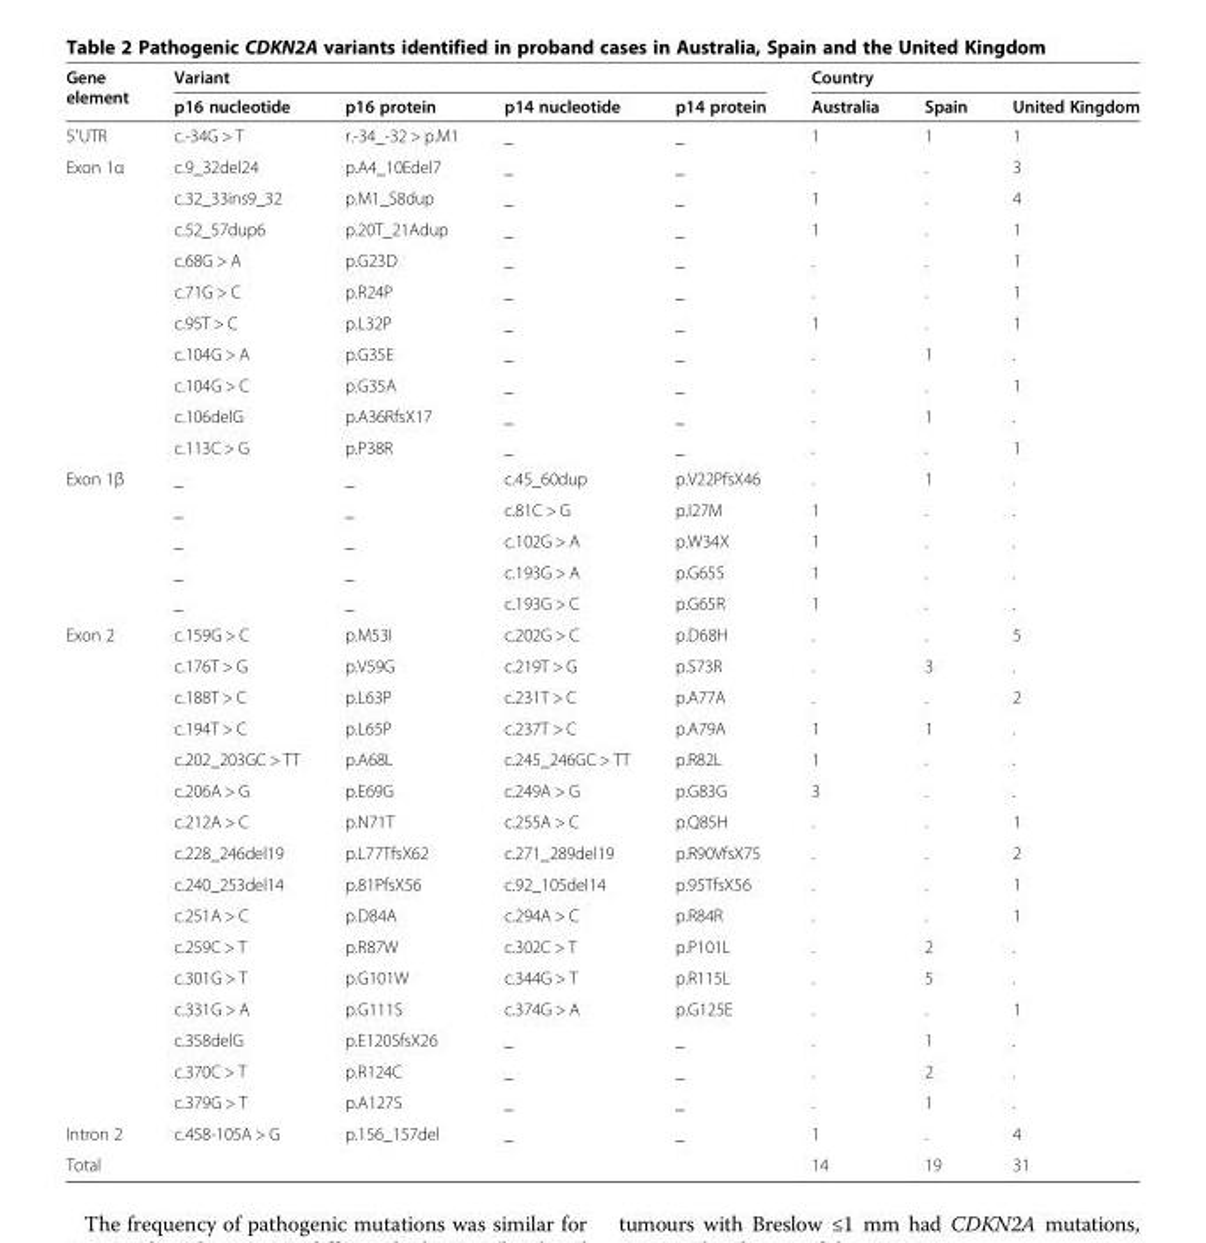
<table><thead><tr><td rowspan="2">Gene element</td><td colspan="4">Variant</td><td colspan="3">Country</td></tr><tr><td>p16 nucleotide</td><td>p16 protein</td><td>p14 nucleotide</td><td>p14 protein</td><td>Australia</td><td>Spain</td><td>United Kingdom</td></tr></thead><tbody><tr><td>5′UTR</td><td>c.-34G &gt; T</td><td>r.-34_-32 &gt; p.M1</td><td>_</td><td>_</td><td>1</td><td>1</td><td>1</td></tr><tr><td rowspan="10">Exon 1α</td><td>c.9_32del24</td><td>p.A4_10Edel7</td><td>_</td><td>_</td><td>.</td><td>.</td><td>3</td></tr><tr><td>c.32_33ins9_32</td><td>p.M1_S8dup</td><td>_</td><td>_</td><td>1</td><td>.</td><td>4</td></tr><tr><td>c.52_57dup6</td><td>p.20T_21Adup</td><td>_</td><td>_</td><td>1</td><td>.</td><td>1</td></tr><tr><td>c.68G &gt; A</td><td>p.G23D</td><td>_</td><td>_</td><td>.</td><td>.</td><td>1</td></tr><tr><td>c.71G &gt; C</td><td>p.R24P</td><td>_</td><td>_</td><td>.</td><td>.</td><td>1</td></tr><tr><td>c.95T &gt; C</td><td>p.L32P</td><td>_</td><td>_</td><td>1</td><td>.</td><td>1</td></tr><tr><td>c.104G &gt; A</td><td>p.G35E</td><td>_</td><td>_</td><td>.</td><td>1</td><td>.</td></tr><tr><td>c.104G &gt; C</td><td>p.G35A</td><td>_</td><td>_</td><td>.</td><td>.</td><td>1</td></tr><tr><td>c.106delG</td><td>p.A36RfsX17</td><td>_</td><td>_</td><td>.</td><td>1</td><td>.</td></tr><tr><td>c.113C &gt; G</td><td>p.P38R</td><td>_</td><td>_</td><td>.</td><td>.</td><td>1</td></tr><tr><td rowspan="5">Exon 1β</td><td>_</td><td>_</td><td>c.45_60dup</td><td>p.V22PfsX46</td><td>.</td><td>1</td><td>.</td></tr><tr><td>_</td><td>_</td><td>c.81C &gt; G</td><td>p.I27M</td><td>1</td><td>.</td><td>.</td></tr><tr><td>_</td><td>_</td><td>c.102G &gt; A</td><td>p.W34X</td><td>1</td><td>.</td><td>.</td></tr><tr><td>_</td><td>_</td><td>c.193G &gt; A</td><td>p.G65S</td><td>1</td><td>.</td><td>.</td></tr><tr><td>_</td><td>_</td><td>c.193G &gt; C</td><td>p.G65R</td><td>1</td><td>.</td><td>.</td></tr><tr><td rowspan="16">Exon 2</td><td>c.159G &gt; C</td><td>p.M53I</td><td>c.202G &gt; C</td><td>p.D68H</td><td>.</td><td>.</td><td>5</td></tr><tr><td>c.176T &gt; G</td><td>p.V59G</td><td>c.219T &gt; G</td><td>p.S73R</td><td>.</td><td>3</td><td>.</td></tr><tr><td>c.188T &gt; C</td><td>p.L63P</td><td>c.231T &gt; C</td><td>p.A77A</td><td>.</td><td>.</td><td>2</td></tr><tr><td>c.194T &gt; C</td><td>p.L65P</td><td>c.237T &gt; C</td><td>p.A79A</td><td>1</td><td>1</td><td>.</td></tr><tr><td>c.202_203GC &gt; TT</td><td>p.A68L</td><td>c.245_246GC &gt; TT</td><td>p.R82L</td><td>1</td><td>.</td><td>.</td></tr><tr><td>c.206A &gt; G</td><td>p.E69G</td><td>c.249A &gt; G</td><td>p.G83G</td><td>3</td><td>.</td><td>.</td></tr><tr><td>c.212A &gt; C</td><td>p.N71T</td><td>c.255A &gt; C</td><td>p.Q85H</td><td>.</td><td>.</td><td>1</td></tr><tr><td>c.228_246del19</td><td>p.L77TfsX62</td><td>c.271_289del19</td><td>p.R90VfsX75</td><td>.</td><td>.</td><td>2</td></tr><tr><td>c.240_253del14</td><td>p.81PfsX56</td><td>c.92_105del14</td><td>p.95TfsX56</td><td>.</td><td>.</td><td>1</td></tr><tr><td>c.251A &gt; C</td><td>p.D84A</td><td>c.294A &gt; C</td><td>p.R84R</td><td>.</td><td>.</td><td>1</td></tr><tr><td>c.259C &gt; T</td><td>p.R87W</td><td>c.302C &gt; T</td><td>p.P101L</td><td>.</td><td>2</td><td>.</td></tr><tr><td>c.301G &gt; T</td><td>p.G101W</td><td>c.344G &gt; T</td><td>p.R115L</td><td>.</td><td>5</td><td>.</td></tr><tr><td>c.331G &gt; A</td><td>p.G111S</td><td>c.374G &gt; A</td><td>p.G125E</td><td>.</td><td>.</td><td>1</td></tr><tr><td>c.358delG</td><td>p.E120SfsX26</td><td>_</td><td>_</td><td>.</td><td>1</td><td>.</td></tr><tr><td>c.370C &gt; T</td><td>p.R124C</td><td>_</td><td>_</td><td>.</td><td>2</td><td>.</td></tr><tr><td>c.379G &gt; T</td><td>p.A127S</td><td>_</td><td>_</td><td>.</td><td>1</td><td>.</td></tr><tr><td>Intron 2</td><td>c.458-105A &gt; G</td><td>p.156_157del</td><td>_</td><td>_</td><td>1</td><td>.</td><td>4</td></tr><tr><td>Total</td><td></td><td></td><td></td><td></td><td>14</td><td>19</td><td>31</td></tr></tbody></table>